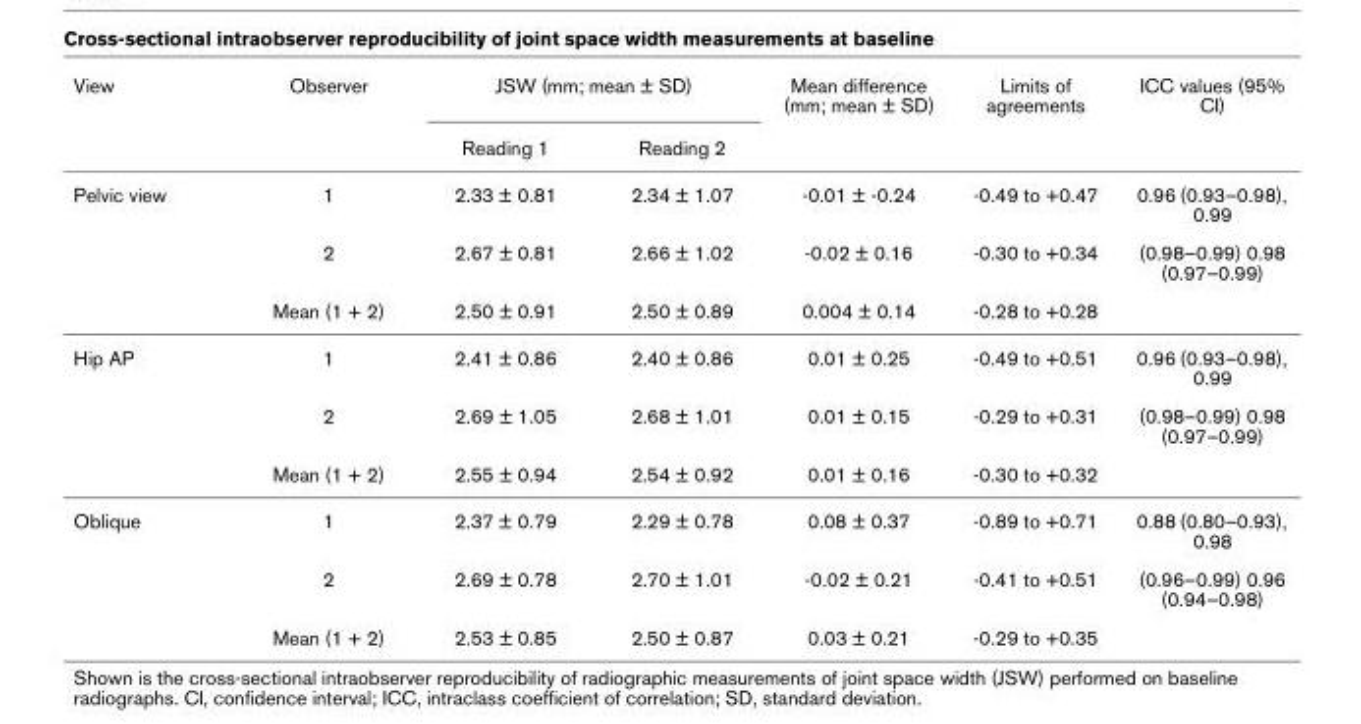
<table><thead><tr><td rowspan="2">View</td><td rowspan="2">Observer</td><td colspan="2">JSW (mm; mean ± SD)</td><td rowspan="2">Mean difference (mm; mean ± SD)</td><td rowspan="2">Limits of agreements</td><td rowspan="2">ICC values (95% CI)</td></tr><tr><td>Reading 1</td><td>Reading 2</td></tr></thead><tbody><tr><td rowspan="3">Pelvic view</td><td>1</td><td>2.33 ± 0.81</td><td>2.34 ± 1.07</td><td>-0.01 ± -0.24</td><td>-0.49 to +0.47</td><td>0.96 (0.93–0.98), 0.99</td></tr><tr><td>2</td><td>2.67 ± 0.81</td><td>2.66 ± 1.02</td><td>-0.02 ± 0.16</td><td>-0.30 to +0.34</td><td>(0.98–0.99) 0.98 (0.97–0.99)</td></tr><tr><td>Mean (1 + 2)</td><td>2.50 ± 0.91</td><td>2.50 ± 0.89</td><td>0.004 ± 0.14</td><td>-0.28 to +0.28</td><td></td></tr><tr><td rowspan="3">Hip AP</td><td>1</td><td>2.41 ± 0.86</td><td>2.40 ± 0.86</td><td>0.01 ± 0.25</td><td>-0.49 to +0.51</td><td>0.96 (0.93–0.98), 0.99</td></tr><tr><td>2</td><td>2.69 ± 1.05</td><td>2.68 ± 1.01</td><td>0.01 ± 0.15</td><td>-0.29 to +0.31</td><td>(0.98–0.99) 0.98 (0.97–0.99)</td></tr><tr><td>Mean (1 + 2)</td><td>2.55 ± 0.94</td><td>2.54 ± 0.92</td><td>0.01 ± 0.16</td><td>-0.30 to +0.32</td><td></td></tr><tr><td rowspan="3">Oblique</td><td>1</td><td>2.37 ± 0.79</td><td>2.29 ± 0.78</td><td>0.08 ± 0.37</td><td>-0.89 to +0.71</td><td>0.88 (0.80–0.93), 0.98</td></tr><tr><td>2</td><td>2.69 ± 0.78</td><td>2.70 ± 1.01</td><td>-0.02 ± 0.21</td><td>-0.41 to +0.51</td><td>(0.96–0.99) 0.96 (0.94–0.98)</td></tr><tr><td>Mean (1 + 2)</td><td>2.53 ± 0.85</td><td>2.50 ± 0.87</td><td>0.03 ± 0.21</td><td>-0.29 to +0.35</td><td></td></tr></tbody></table>